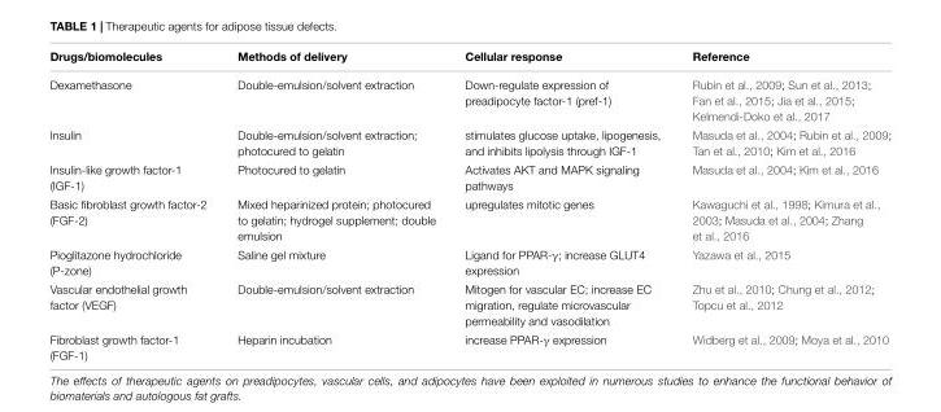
<table><thead><tr><td>Drugs/biomolecules</td><td>Methods of delivery</td><td>Cellular response</td><td>Reference</td></tr></thead><tbody><tr><td>Dexamethasone</td><td>Double-emulsion/solvent extraction</td><td>Down-regulate expression of preadipocyte factor-1 (pref-1)</td><td>Rubin et al., 2009; Sun et al., 2013; Fan et al., 2015; Jia et al., 2015; Kelmendi-Doko et al., 2017</td></tr><tr><td>Insulin</td><td>Double-emulsion/solvent extraction; photocured to gelatin</td><td>stimulates glucose uptake, lipogenesis, and inhibits lipolysis through IGF-1</td><td>Masuda et al., 2004; Rubin et al., 2009; Tan et al., 2010; Kim et al., 2016</td></tr><tr><td>Insulin-like growth factor-1 (IGF-1)</td><td>Photocured to gelatin</td><td>Activates AKT and MAPK signaling pathways</td><td>Masuda et al., 2004; Kim et al., 2016</td></tr><tr><td>Basic fibroblast growth factor-2 (FGF-2)</td><td>Mixed heparinized protein; photocured to gelatin; hydrogel supplement; double emulsion</td><td>upregulates mitotic genes</td><td>Kawaguchi et al., 1998; Kimura et al., 2003; Masuda et al., 2004; Zhang et al., 2016</td></tr><tr><td>Pioglitazone hydrochloride (P-zone)</td><td>Saline gel mixture</td><td>Ligand for PPAR-γ; increase GLUT4 expression</td><td>Yazawa et al., 2015</td></tr><tr><td>Vascular endothelial growth factor (VEGF)</td><td>Double-emulsion/solvent extraction</td><td>Mitogen for vascular EC; increase EC migration, regulate microvascular permeability and vasodilation</td><td>Zhu et al., 2010; Chung et al., 2012; Topcu et al., 2012</td></tr><tr><td>Fibroblast growth factor-1 (FGF-1)</td><td>Heparin incubation</td><td>increase PPAR-γ expression</td><td>Widberg et al., 2009; Moya et al., 2010</td></tr></tbody></table>